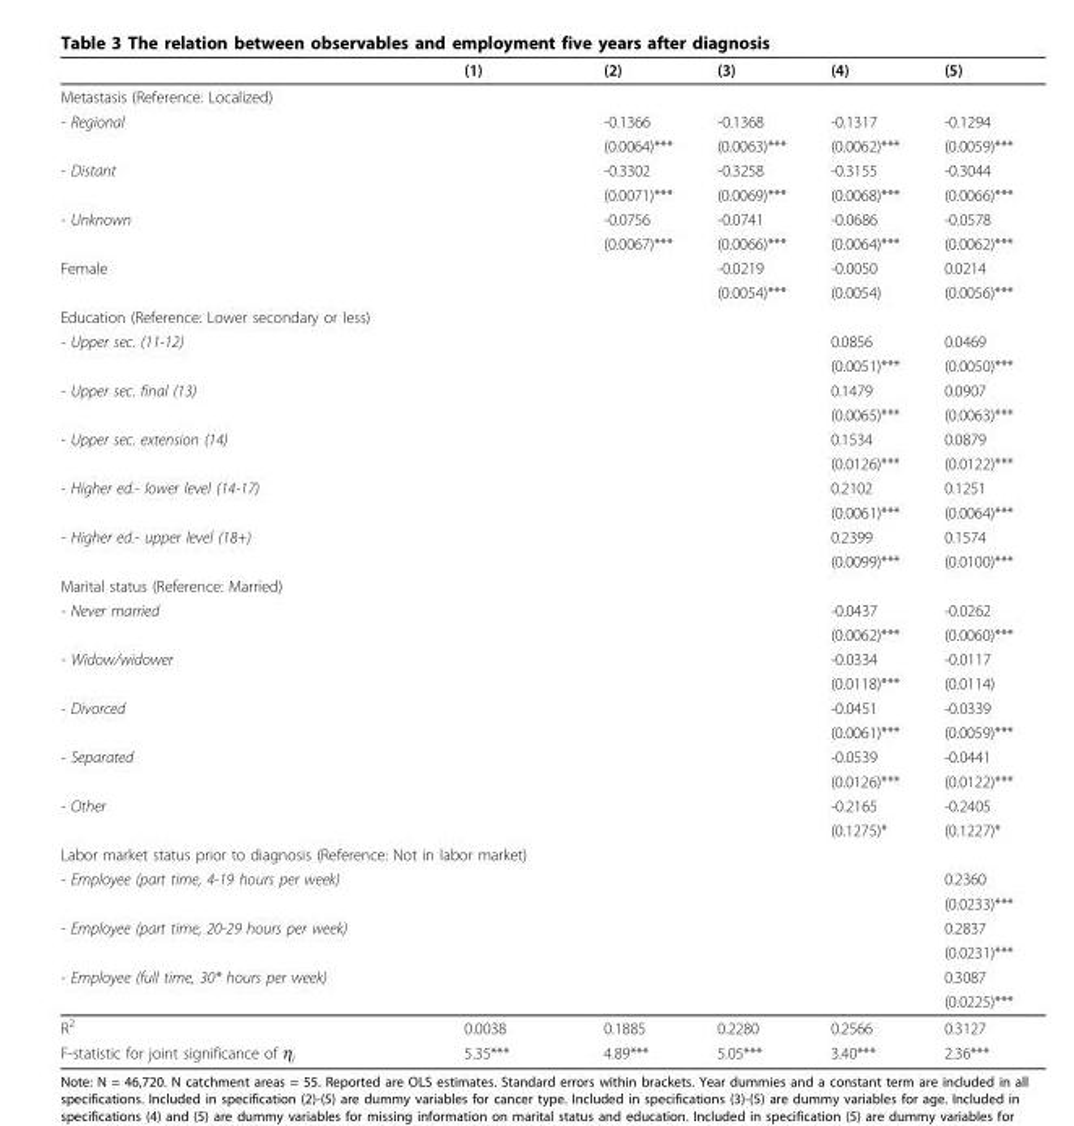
<table><thead><tr><td></td><td>(1)</td><td>(2)</td><td>(3)</td><td>(4)</td><td>(5)</td></tr></thead><tbody><tr><td colspan="6">Metastasis (Reference: Localized)</td></tr><tr><td rowspan="2">- Regional</td><td></td><td>-0.1366</td><td>-0.1368</td><td>-0.1317</td><td>-0.1294</td></tr><tr><td></td><td>(0.0064)***</td><td>(0.0063)***</td><td>(0.0062)***</td><td>(0.0059)***</td></tr><tr><td rowspan="2">- Distant</td><td></td><td>-0.3302</td><td>-0.3258</td><td>-0.3155</td><td>-0.3044</td></tr><tr><td></td><td>(0.0071)***</td><td>(0.0069)***</td><td>(0.0068)***</td><td>(0.0066)***</td></tr><tr><td rowspan="2">- Unknown</td><td></td><td>-0.0756</td><td>-0.0741</td><td>-0.0686</td><td>-0.0578</td></tr><tr><td></td><td>(0.0067)***</td><td>(0.0066)***</td><td>(0.0064)***</td><td>(0.0062)***</td></tr><tr><td rowspan="2">Female</td><td></td><td></td><td>-0.0219</td><td>-0.0050</td><td>0.0214</td></tr><tr><td></td><td></td><td>(0.0054)***</td><td>(0.0054)</td><td>(0.0056)***</td></tr><tr><td colspan="6">Education (Reference: Lower secondary or less)</td></tr><tr><td rowspan="2">- Upper sec. (11-12)</td><td></td><td></td><td></td><td>0.0856</td><td>0.0469</td></tr><tr><td></td><td></td><td></td><td>(0.0051)***</td><td>(0.0050)***</td></tr><tr><td rowspan="2">- Upper sec. final (13)</td><td></td><td></td><td></td><td>0.1479</td><td>0.0907</td></tr><tr><td></td><td></td><td></td><td>(0.0065)***</td><td>(0.0063)***</td></tr><tr><td rowspan="2">- Upper sec. extension (14)</td><td></td><td></td><td></td><td>0.1534</td><td>0.0879</td></tr><tr><td></td><td></td><td></td><td>(0.0126)***</td><td>(0.0122)***</td></tr><tr><td colspan="2">- Higher ed.- lower level (14-17)</td><td></td><td></td><td>0.2102</td><td>0.1251</td></tr><tr><td></td><td></td><td></td><td></td><td>(0.0061)***</td><td>(0.0064)***</td></tr><tr><td colspan="2">- Higher ed.- upper level (18+)</td><td></td><td></td><td>0.2399</td><td>0.1574</td></tr><tr><td></td><td></td><td></td><td></td><td>(0.0099)***</td><td>(0.0100)***</td></tr><tr><td colspan="6">Marital status (Reference: Married)</td></tr><tr><td rowspan="2">- Never married</td><td></td><td></td><td></td><td>-0.0437</td><td>-0.0262</td></tr><tr><td></td><td></td><td></td><td>(0.0062)***</td><td>(0.0060)***</td></tr><tr><td rowspan="2">- Widow/widower</td><td></td><td></td><td></td><td>-0.0334</td><td>-0.0117</td></tr><tr><td></td><td></td><td></td><td>(0.0118)***</td><td>(0.0114)</td></tr><tr><td rowspan="2">- Divorced</td><td></td><td></td><td></td><td>-0.0451</td><td>-0.0339</td></tr><tr><td></td><td></td><td></td><td>(0.0061)***</td><td>(0.0059)***</td></tr><tr><td rowspan="2">- Separated</td><td></td><td></td><td></td><td>-0.0539</td><td>-0.0441</td></tr><tr><td></td><td></td><td></td><td>(0.0126)***</td><td>(0.0122)***</td></tr><tr><td rowspan="2">- Other</td><td></td><td></td><td></td><td>-0.2165</td><td>-0.2405</td></tr><tr><td></td><td></td><td></td><td>(0.1275)*</td><td>(0.1227)*</td></tr><tr><td colspan="6">Labor market status prior to diagnosis (Reference: Not in labor market)</td></tr><tr><td colspan="2">- Employee (part time, 4-19 hours per week)</td><td></td><td></td><td></td><td>0.2360</td></tr><tr><td></td><td></td><td></td><td></td><td></td><td>(0.0233)***</td></tr><tr><td colspan="2">- Employee (part time, 20-29 hours per week)</td><td></td><td></td><td></td><td>0.2837</td></tr><tr><td></td><td></td><td></td><td></td><td></td><td>(0.0231)***</td></tr><tr><td colspan="2">- Employee (full time, 30* hours per week)</td><td></td><td></td><td></td><td>0.3087</td></tr><tr><td></td><td></td><td></td><td></td><td></td><td>(0.0225)***</td></tr><tr><td>R<sup>2</sup></td><td>0.0038</td><td>0.1885</td><td>0.2280</td><td>0.2566</td><td>0.3127</td></tr><tr><td>F-statistic for joint significance of η<sub>j</sub></td><td>5.35***</td><td>4.89***</td><td>5.05***</td><td>3.40***</td><td>2.36***</td></tr></tbody></table>